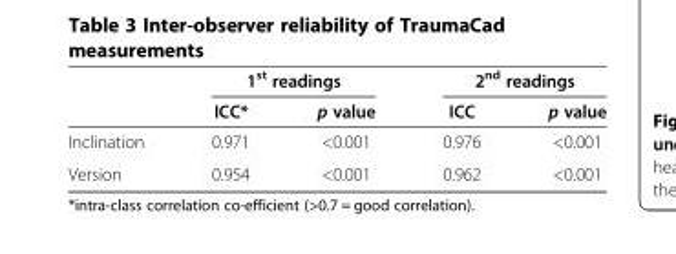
<table><thead><tr><td rowspan="2"></td><td colspan="2">1<sup>st</sup> readings</td><td colspan="2">2<sup>nd</sup> readings</td></tr><tr><td>ICC*</td><td>p value</td><td>ICC</td><td>p value</td></tr></thead><tbody><tr><td>Inclination</td><td>0.971</td><td>&lt;0.001</td><td>0.976</td><td>&lt;0.001</td></tr><tr><td>Version</td><td>0.954</td><td>&lt;0.001</td><td>0.962</td><td>&lt;0.001</td></tr></tbody></table>